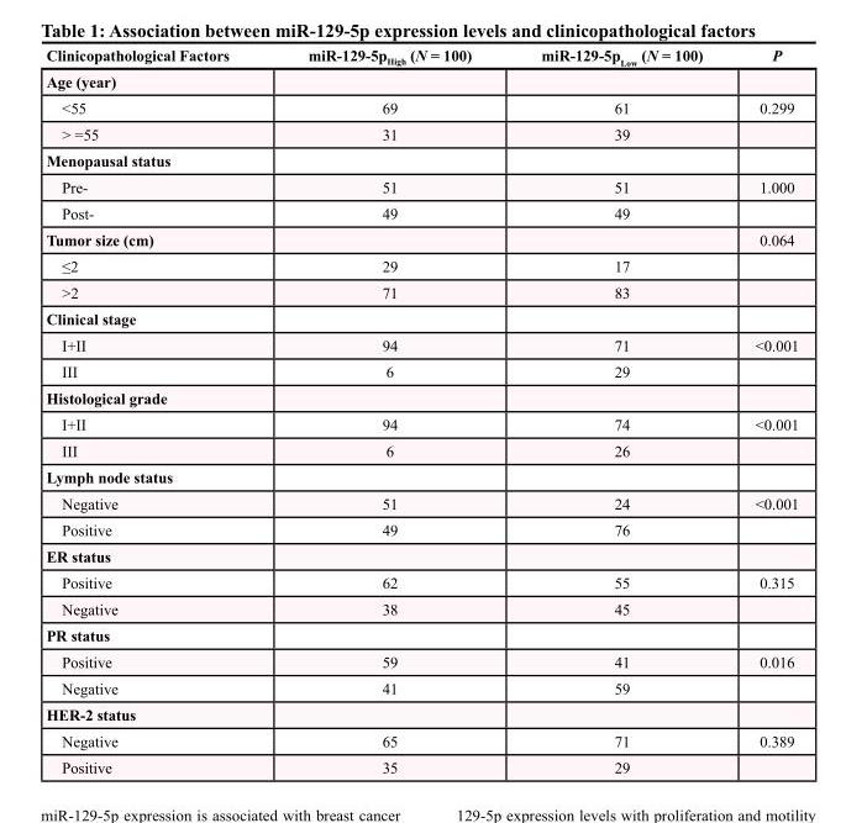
<table><thead><tr><td>Clinicopathological Factors</td><td>miR-129-5p<sub>High</sub> (N = 100)</td><td>miR-129-5p<sub>Low</sub> (N = 100)</td><td>P</td></tr></thead><tbody><tr><td colspan="4">Age (year)</td></tr><tr><td>&lt;55</td><td>69</td><td>61</td><td>0.299</td></tr><tr><td>&gt; =55</td><td>31</td><td>39</td><td></td></tr><tr><td colspan="4">Menopausal status</td></tr><tr><td>Pre-</td><td>51</td><td>51</td><td>1.000</td></tr><tr><td>Post-</td><td>49</td><td>49</td><td></td></tr><tr><td>Tumor size (cm)</td><td></td><td></td><td>0.064</td></tr><tr><td>≤2</td><td>29</td><td>17</td><td></td></tr><tr><td>&gt;2</td><td>71</td><td>83</td><td></td></tr><tr><td colspan="4">Clinical stage</td></tr><tr><td>I+II</td><td>94</td><td>71</td><td>&lt;0.001</td></tr><tr><td>III</td><td>6</td><td>29</td><td></td></tr><tr><td colspan="4">Histological grade</td></tr><tr><td>I+II</td><td>94</td><td>74</td><td>&lt;0.001</td></tr><tr><td>III</td><td>6</td><td>26</td><td></td></tr><tr><td colspan="4">Lymph node status</td></tr><tr><td>Negative</td><td>51</td><td>24</td><td>&lt;0.001</td></tr><tr><td>Positive</td><td>49</td><td>76</td><td></td></tr><tr><td colspan="4">ER status</td></tr><tr><td>Positive</td><td>62</td><td>55</td><td>0.315</td></tr><tr><td>Negative</td><td>38</td><td>45</td><td></td></tr><tr><td colspan="4">PR status</td></tr><tr><td>Positive</td><td>59</td><td>41</td><td>0.016</td></tr><tr><td>Negative</td><td>41</td><td>59</td><td></td></tr><tr><td colspan="4">HER-2 status</td></tr><tr><td>Negative</td><td>65</td><td>71</td><td>0.389</td></tr><tr><td>Positive</td><td>35</td><td>29</td><td></td></tr></tbody></table>